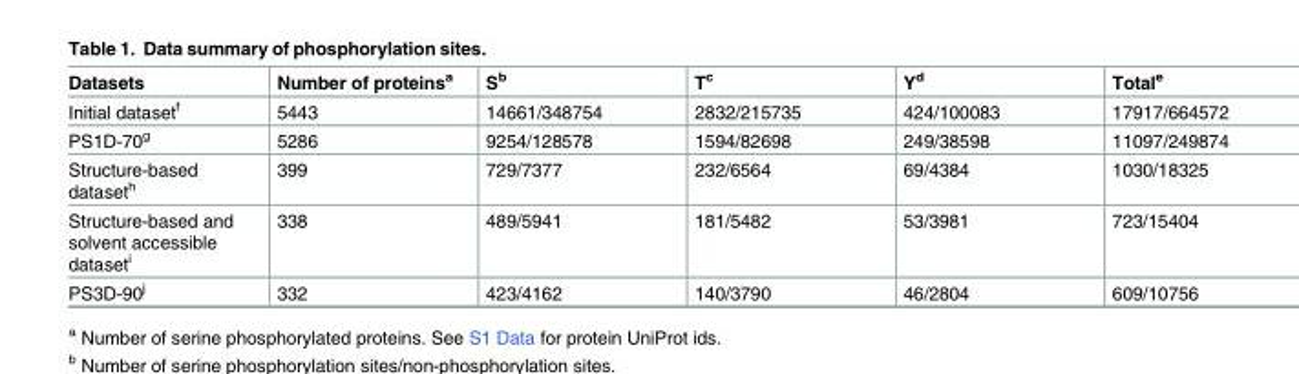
<table><thead><tr><td>Datasets</td><td>Number of proteins<sup>a</sup></td><td>S<sup>b</sup></td><td>T<sup>c</sup></td><td>Y<sup>d</sup></td><td>Total<sup>e</sup></td></tr></thead><tbody><tr><td>Initial dataset<sup>f</sup></td><td>5443</td><td>14661/348754</td><td>2832/215735</td><td>424/100083</td><td>17917/664572</td></tr><tr><td>PS1D-70<sup>g</sup></td><td>5286</td><td>9254/128578</td><td>1594/82698</td><td>249/38598</td><td>11097/249874</td></tr><tr><td>Structure-based dataset<sup>h</sup></td><td>399</td><td>729/7377</td><td>232/6564</td><td>69/4384</td><td>1030/18325</td></tr><tr><td>Structure-based and solvent accessible dataset<sup>i</sup></td><td>338</td><td>489/5941</td><td>181/5482</td><td>53/3981</td><td>723/15404</td></tr><tr><td>PS3D-90<sup>j</sup></td><td>332</td><td>423/4162</td><td>140/3790</td><td>46/2804</td><td>609/10756</td></tr></tbody></table>